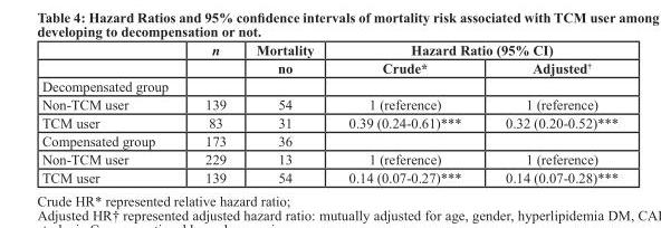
<table><thead><tr><td rowspan="2"></td><td rowspan="2">n</td><td rowspan="2">Mortality no</td><td colspan="2">Hazard Ratio (95% CI)</td></tr><tr><td>Crude*</td><td>Adjusted<sup>†</sup></td></tr></thead><tbody><tr><td colspan="5">Decompensated group</td></tr><tr><td>Non-TCM user</td><td>139</td><td>54</td><td>1 (reference)</td><td>1 (reference)</td></tr><tr><td>TCM user</td><td>83</td><td>31</td><td>0.39 (0.24-0.61)***</td><td>0.32 (0.20-0.52)***</td></tr><tr><td>Compensated group</td><td>173</td><td>36</td><td></td><td></td></tr><tr><td>Non-TCM user</td><td>229</td><td>13</td><td>1 (reference)</td><td>1 (reference)</td></tr><tr><td>TCM user</td><td>139</td><td>54</td><td>0.14 (0.07-0.27)***</td><td>0.14 (0.07-0.28)***</td></tr></tbody></table>